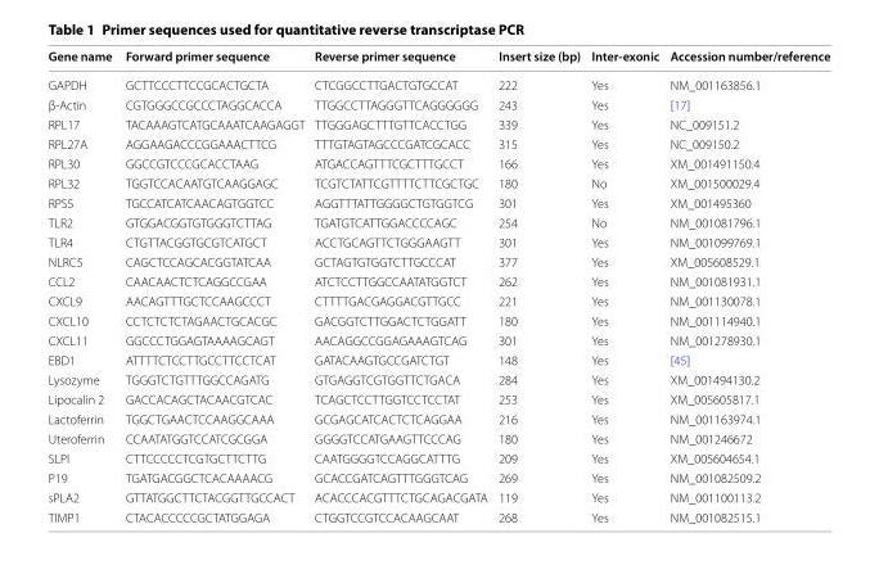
<table><thead><tr><td>Gene name</td><td>Forward primer sequence</td><td>Reverse primer sequence</td><td>Insert size (bp)</td><td>Inter‑exonic</td><td>Accession number/reference</td></tr></thead><tbody><tr><td>GAPDH</td><td>GCTTCCCTTCCGCACTGCTA</td><td>CTCGGCCTTGACTGTGCCAT</td><td>222</td><td>Yes</td><td>NM_001163856.1</td></tr><tr><td>β-Actin</td><td>CGTGGGCCGCCCTAGGCACCA</td><td>TTGGCCTTAGGGTTCAGGGGGG</td><td>243</td><td>Yes</td><td>[17]</td></tr><tr><td>RPL17</td><td>TACAAAGTCATGCAAATCAAGAGGT</td><td>TTGGGAGCTTTGTTCACCTGG</td><td>339</td><td>Yes</td><td>NC_009151.2</td></tr><tr><td>RPL27A</td><td>AGGAAGACCCGGAAACTTCG</td><td>TTTGTAGTAGCCCGATCGCACC</td><td>315</td><td>Yes</td><td>NC_009150.2</td></tr><tr><td>RPL30</td><td>GGCCGTCCCGCACCTAAG</td><td>ATGACCAGTTTCGCTTTGCCT</td><td>166</td><td>Yes</td><td>XM_001491150.4</td></tr><tr><td>RPL32</td><td>TGGTCCACAATGTCAAGGAGC</td><td>TCGTCTATTCGTTTTCTTCGCTGC</td><td>180</td><td>No</td><td>XM_001500029.4</td></tr><tr><td>RPS5</td><td>TGCCATCATCAACAGTGGTCC</td><td>AGGTTTATTGGGGCTGTGGTCG</td><td>301</td><td>Yes</td><td>XM_001495360</td></tr><tr><td>TLR2</td><td>GTGGACGGTGTGGGTCTTAG</td><td>TGATGTCATTGGACCCCAGC</td><td>254</td><td>No</td><td>NM_001081796.1</td></tr><tr><td>TLR4</td><td>CTGTTACGGTGCGTCATGCT</td><td>ACCTGCAGTTCTGGGAAGTT</td><td>301</td><td>Yes</td><td>NM_001099769.1</td></tr><tr><td>NLRC5</td><td>CAGCTCCAGCACGGTATCAA</td><td>GCTAGTGTGGTCTTGCCCAT</td><td>377</td><td>Yes</td><td>XM_005608529.1</td></tr><tr><td>CCL2</td><td>CAACAACTCTCAGGCCGAA</td><td>ATCTCCTTGGCCAATATGGTCT</td><td>262</td><td>Yes</td><td>NM_001081931.1</td></tr><tr><td>CXCL9</td><td>AACAGTTTGCTCCAAGCCCT</td><td>CTTTTGACGAGGACGTTGCC</td><td>221</td><td>Yes</td><td>NM_001130078.1</td></tr><tr><td>CXCL10</td><td>CCTCTCTCTAGAACTGCACGC</td><td>GACGGTCTTGGACTCTGGATT</td><td>180</td><td>Yes</td><td>NM_001114940.1</td></tr><tr><td>CXCL11</td><td>GGCCCTGGAGTAAAAGCAGT</td><td>AACAGGCCGGAGAAAGTCAG</td><td>301</td><td>Yes</td><td>NM_001278930.1</td></tr><tr><td>EBD1</td><td>ATTTTCTCCTTGCCTTCCTCAT</td><td>GATACAAGTGCCGATCTGT</td><td>148</td><td>Yes</td><td>[45]</td></tr><tr><td>Lysozyme</td><td>TGGGTCTGTTTGGCCAGATG</td><td>GTGAGGTCGTGGTTCTGACA</td><td>284</td><td>Yes</td><td>XM_001494130.2</td></tr><tr><td>Lipocalin 2</td><td>GACCACAGCTACAACGTCAC</td><td>TCAGCTCCTTGGTCCTCCTAT</td><td>253</td><td>Yes</td><td>XM_005605817.1</td></tr><tr><td>Lactoferrin</td><td>TGGCTGAACTCCAAGGCAAA</td><td>GCGAGCATCACTCTCAGGAA</td><td>216</td><td>Yes</td><td>NM_001163974.1</td></tr><tr><td>Uteroferrin</td><td>CCAATATGGTCCATCGCGGA</td><td>GGGGTCCATGAAGTTCCCAG</td><td>180</td><td>Yes</td><td>NM_001246672</td></tr><tr><td>SLPI</td><td>CTTCCCCCTCGTGCTTCTTG</td><td>CAATGGGGTCCAGGCATTTG</td><td>209</td><td>Yes</td><td>XM_005604654.1</td></tr><tr><td>P19</td><td>TGATGACGGCTCACAAAACG</td><td>GCACCGATCAGTTTGGGTCAG</td><td>269</td><td>Yes</td><td>NM_001082509.2</td></tr><tr><td>sPLA2</td><td>GTTATGGCTTCTACGGTTGCCACT</td><td>ACACCCACGTTTCTGCAGACGATA</td><td>119</td><td>Yes</td><td>NM_001100113.2</td></tr><tr><td>TIMP1</td><td>CTACACCCCCGCTATGGAGA</td><td>CTGGTCCGTCCACAAGCAAT</td><td>268</td><td>Yes</td><td>NM_001082515.1</td></tr></tbody></table>